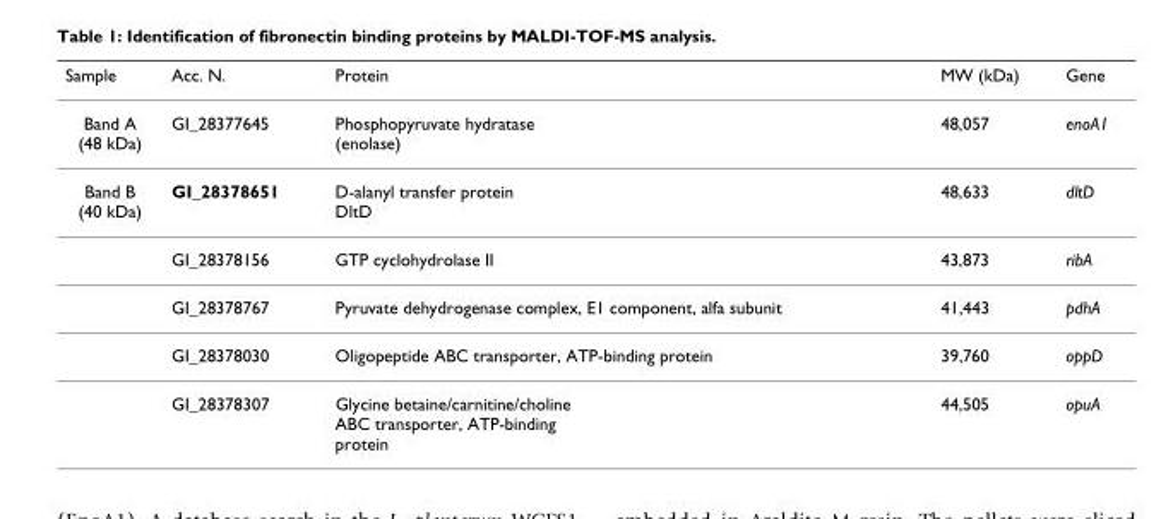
<table><thead><tr><td>Sample</td><td>Acc. N.</td><td>Protein</td><td>MW (kDa)</td><td>Gene</td></tr></thead><tbody><tr><td>Band A (48 kDa)</td><td>GI_28377645</td><td>Phosphopyruvate hydratase (enolase)</td><td>48,057</td><td>enoA1</td></tr><tr><td rowspan="5">Band B (40 kDa)</td><td>GI_28378651</td><td>D-alanyl transfer protein DltD</td><td>48,633</td><td>dltD</td></tr><tr><td>GI_28378156</td><td>GTP cyclohydrolase II</td><td>43,873</td><td>ribA</td></tr><tr><td>GI_28378767</td><td>Pyruvate dehydrogenase complex, E1 component, alfa subunit</td><td>41,443</td><td>pdhA</td></tr><tr><td>GI_28378030</td><td>Oligopeptide ABC transporter, ATP-binding protein</td><td>39,760</td><td>oppD</td></tr><tr><td>GI_28378307</td><td>Glycine betaine/carnitine/choline ABC transporter, ATP-binding protein</td><td>44,505</td><td>opuA</td></tr></tbody></table>